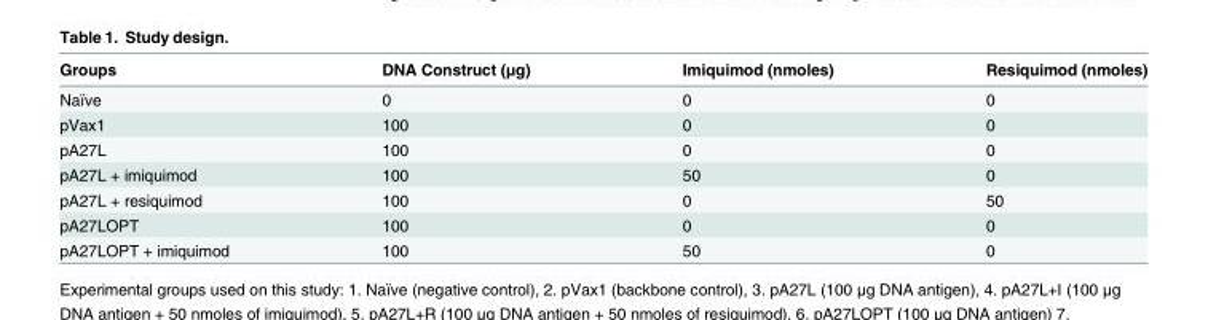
<table><thead><tr><td>Groups</td><td>DNA Construct (μg)</td><td>Imiquimod (nmoles)</td><td>Resiquimod (nmoles)</td></tr></thead><tbody><tr><td>Naïve</td><td>0</td><td>0</td><td>0</td></tr><tr><td>pVax1</td><td>100</td><td>0</td><td>0</td></tr><tr><td>pA27L</td><td>100</td><td>0</td><td>0</td></tr><tr><td>pA27L + imiquimod</td><td>100</td><td>50</td><td>0</td></tr><tr><td>pA27L + resiquimod</td><td>100</td><td>0</td><td>50</td></tr><tr><td>pA27LOPT</td><td>100</td><td>0</td><td>0</td></tr><tr><td>pA27LOPT + imiquimod</td><td>100</td><td>50</td><td>0</td></tr></tbody></table>